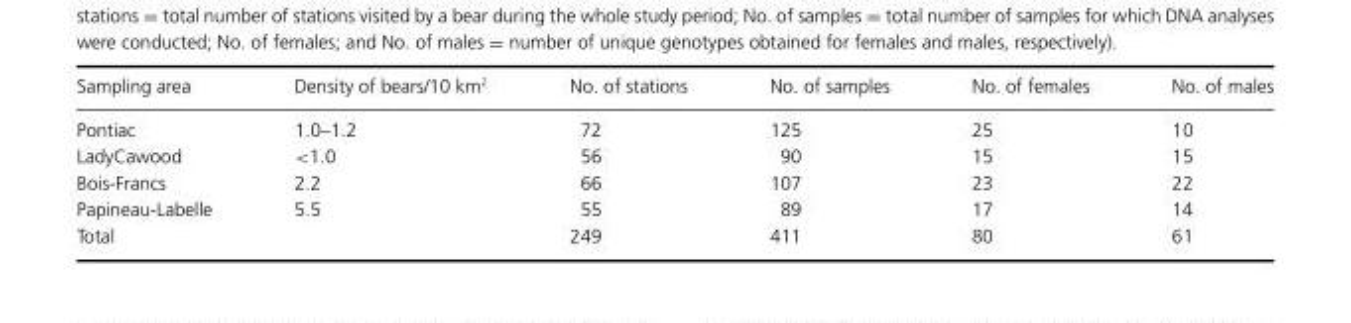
<table><thead><tr><td>Sampling area</td><td>Density of bears/10 km<sup>2</sup></td><td>No. of stations</td><td>No. of samples</td><td>No. of females</td><td>No. of males</td></tr></thead><tbody><tr><td>Pontiac</td><td>1.0–1.2</td><td>72</td><td>125</td><td>25</td><td>10</td></tr><tr><td>LadyCawood</td><td>&lt;1.0</td><td>56</td><td>90</td><td>15</td><td>15</td></tr><tr><td>Bois-Francs</td><td>2.2</td><td>66</td><td>107</td><td>23</td><td>22</td></tr><tr><td>Papineau-Labelle</td><td>5.5</td><td>55</td><td>89</td><td>17</td><td>14</td></tr><tr><td>Total</td><td></td><td>249</td><td>411</td><td>80</td><td>61</td></tr></tbody></table>